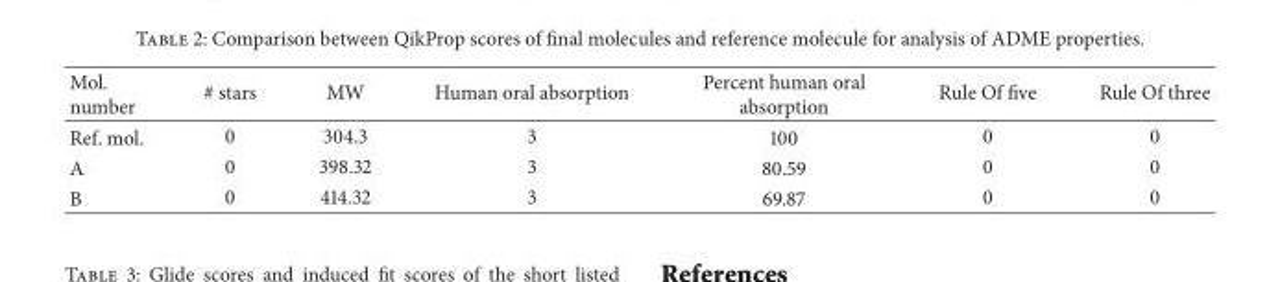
<table><thead><tr><td>Mol. number</td><td># stars</td><td>MW</td><td>Human oral absorption</td><td>Percent human oral absorption</td><td>Rule Of five</td><td>Rule Of three</td></tr></thead><tbody><tr><td>Ref. mol.</td><td>0</td><td>304.3</td><td>3</td><td>100</td><td>0</td><td>0</td></tr><tr><td>A</td><td>0</td><td>398.32</td><td>3</td><td>80.59</td><td>0</td><td>0</td></tr><tr><td>B</td><td>0</td><td>414.32</td><td>3</td><td>69.87</td><td>0</td><td>0</td></tr></tbody></table>